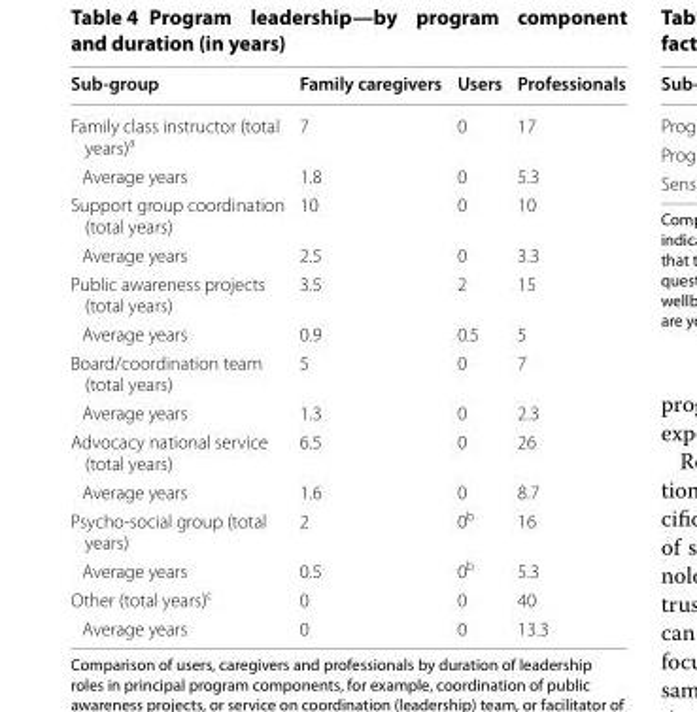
<table><thead><tr><td>Sub-group</td><td>Family caregivers</td><td>Users</td><td>Professionals</td></tr></thead><tbody><tr><td>Family class instructor (total years)<sup>a</sup></td><td>7</td><td>0</td><td>17</td></tr><tr><td>Average years</td><td>1.8</td><td>0</td><td>5.3</td></tr><tr><td>Support group coordination (total years)</td><td>10</td><td>0</td><td>10</td></tr><tr><td>Average years</td><td>2.5</td><td>0</td><td>3.3</td></tr><tr><td>Public awareness projects (total years)</td><td>3.5</td><td>2</td><td>15</td></tr><tr><td>Average years</td><td>0.9</td><td>0.5</td><td>5</td></tr><tr><td>Board/coordination team (total years)</td><td>5</td><td>0</td><td>7</td></tr><tr><td>Average years</td><td>1.3</td><td>0</td><td>2.3</td></tr><tr><td>Advocacy national service (total years)</td><td>6.5</td><td>0</td><td>26</td></tr><tr><td>Average years</td><td>1.6</td><td>0</td><td>8.7</td></tr><tr><td>Psycho-social group (total years)</td><td>2</td><td>0<sup>b</sup></td><td>16</td></tr><tr><td>Average years</td><td>0.5</td><td>0<sup>b</sup></td><td>5.3</td></tr><tr><td>Other (total years)<sup>c</sup></td><td>0</td><td>0</td><td>40</td></tr><tr><td>Average years</td><td>0</td><td>0</td><td>13.3</td></tr></tbody></table>